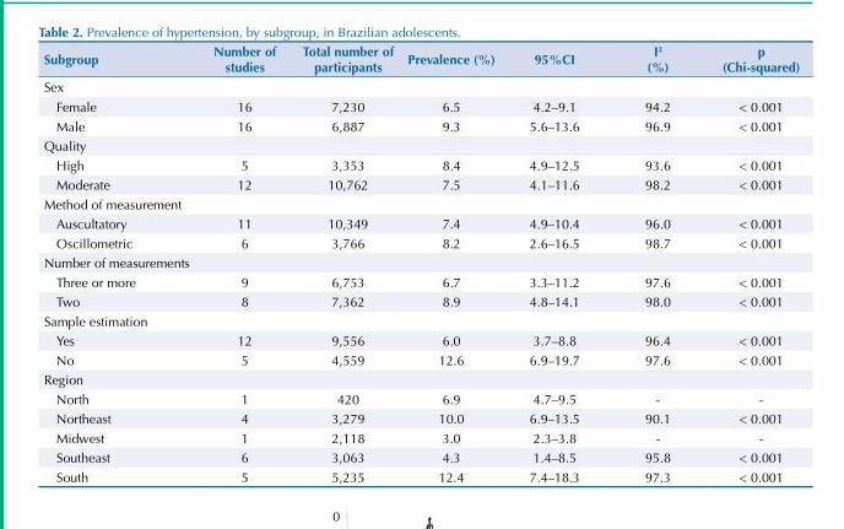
<table><thead><tr><td>Subgroup</td><td>Number of studies</td><td>Total number of participants</td><td>Prevalence (%)</td><td>95%CI</td><td>I<sup>2</sup> (%)</td><td>p (Chi-squared)</td></tr></thead><tbody><tr><td colspan="7">Sex</td></tr><tr><td>Female</td><td>16</td><td>7,230</td><td>6.5</td><td>4.2–9.1</td><td>94.2</td><td>&lt; 0.001</td></tr><tr><td>Male</td><td>16</td><td>6,887</td><td>9.3</td><td>5.6–13.6</td><td>96.9</td><td>&lt; 0.001</td></tr><tr><td colspan="7">Quality</td></tr><tr><td>High</td><td>5</td><td>3,353</td><td>8.4</td><td>4.9–12.5</td><td>93.6</td><td>&lt; 0.001</td></tr><tr><td>Moderate</td><td>12</td><td>10,762</td><td>7.5</td><td>4.1–11.6</td><td>98.2</td><td>&lt; 0.001</td></tr><tr><td colspan="7">Method of measurement</td></tr><tr><td>Auscultatory</td><td>11</td><td>10,349</td><td>7.4</td><td>4.9–10.4</td><td>96.0</td><td>&lt; 0.001</td></tr><tr><td>Oscillometric</td><td>6</td><td>3,766</td><td>8.2</td><td>2.6–16.5</td><td>98.7</td><td>&lt; 0.001</td></tr><tr><td colspan="7">Number of measurements</td></tr><tr><td>Three or more</td><td>9</td><td>6,753</td><td>6.7</td><td>3.3–11.2</td><td>97.6</td><td>&lt; 0.001</td></tr><tr><td>Two</td><td>8</td><td>7,362</td><td>8.9</td><td>4.8–14.1</td><td>98.0</td><td>&lt; 0.001</td></tr><tr><td colspan="7">Sample estimation</td></tr><tr><td>Yes</td><td>12</td><td>9,556</td><td>6.0</td><td>3.7–8.8</td><td>96.4</td><td>&lt; 0.001</td></tr><tr><td>No</td><td>5</td><td>4,559</td><td>12.6</td><td>6.9–19.7</td><td>97.6</td><td>&lt; 0.001</td></tr><tr><td colspan="7">Region</td></tr><tr><td>North</td><td>1</td><td>420</td><td>6.9</td><td>4.7–9.5</td><td>-</td><td>-</td></tr><tr><td>Northeast</td><td>4</td><td>3,279</td><td>10.0</td><td>6.9–13.5</td><td>90.1</td><td>&lt; 0.001</td></tr><tr><td>Midwest</td><td>1</td><td>2,118</td><td>3.0</td><td>2.3–3.8</td><td>-</td><td>-</td></tr><tr><td>Southeast</td><td>6</td><td>3,063</td><td>4.3</td><td>1.4–8.5</td><td>95.8</td><td>&lt; 0.001</td></tr><tr><td>South</td><td>5</td><td>5,235</td><td>12.4</td><td>7.4–18.3</td><td>97.3</td><td>&lt; 0.001</td></tr></tbody></table>